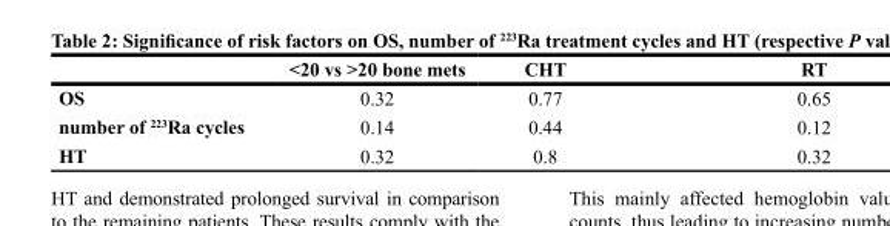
<table><thead><tr><td></td><td>&lt;20 vs &gt;20 bone mets</td><td>CHT</td><td>RT</td></tr></thead><tbody><tr><td>OS</td><td>0.32</td><td>0.77</td><td>0.65</td></tr><tr><td>number of <sup>223</sup>Ra cycles</td><td>0.14</td><td>0.44</td><td>0.12</td></tr><tr><td>HT</td><td>0.32</td><td>0.8</td><td>0.32</td></tr></tbody></table>